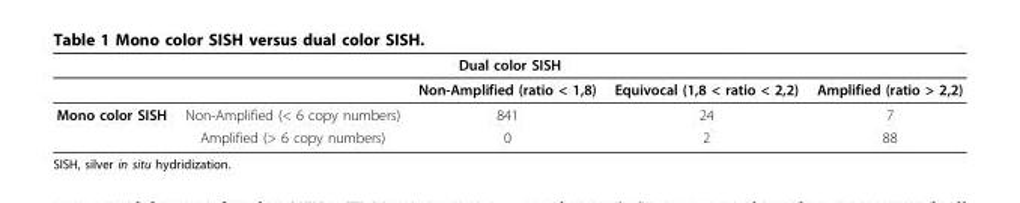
<table><thead><tr><td colspan="5">Dual color SISH</td></tr><tr><td></td><td></td><td>Non-Amplified (ratio &lt; 1,8)</td><td>Equivocal (1,8 &lt; ratio &lt; 2,2)</td><td>Amplified (ratio &gt; 2,2)</td></tr></thead><tbody><tr><td rowspan="2">Mono color SISH</td><td>Non-Amplified (&lt; 6 copy numbers)</td><td>841</td><td>24</td><td>7</td></tr><tr><td>Amplified (&gt; 6 copy numbers)</td><td>0</td><td>2</td><td>88</td></tr></tbody></table>